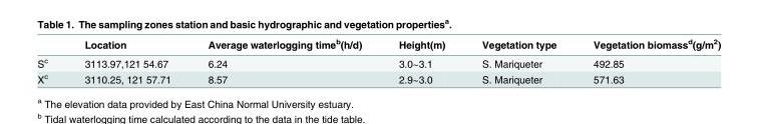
<table><thead><tr><td></td><td>Location</td><td>Average waterlogging time<sup>b</sup>(h/d)</td><td>Height(m)</td><td>Vegetation type</td><td>Vegetation biomass<sup>d</sup>(g/m<sup>2</sup>)</td></tr></thead><tbody><tr><td>S<sup>c</sup></td><td>3113.97,121 54.67</td><td>6.24</td><td>3.0~3.1</td><td>S. Mariqueter</td><td>492.85</td></tr><tr><td>X<sup>c</sup></td><td>3110.25, 121 57.71</td><td>8.57</td><td>2.9~3.0</td><td>S. Mariqueter</td><td>571.63</td></tr></tbody></table>